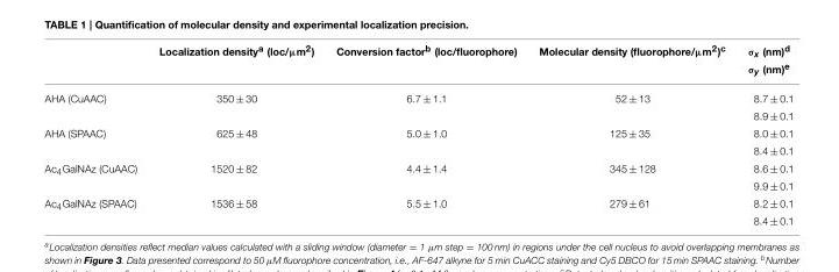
<table><thead><tr><td></td><td>Localization density<sup>a</sup> (loc/µm<sup>2</sup>)</td><td>Conversion factor<sup>b</sup> (loc/fluorophore)</td><td>Molecular density (fluorophore/µm<sup>2</sup>)<sup>c</sup></td><td>σ<sub>x</sub> (nm)<sup>d</sup> σ<sub>y</sub> (nm)<sup>e</sup></td></tr></thead><tbody><tr><td>AHA (CuAAC)</td><td>350 ± 30</td><td>6.7 ± 1.1</td><td>52 ± 13</td><td>8.7 ± 0.1 8.9 ± 0.1</td></tr><tr><td>AHA (SPAAC)</td><td>625 ± 48</td><td>5.0 ± 1.0</td><td>125 ± 35</td><td>8.0 ± 0.1 8.4 ± 0.1</td></tr><tr><td>Ac<sub>4</sub>GalNAz (CuAAC)</td><td>1520 ± 82</td><td>4.4 ± 1.4</td><td>345 ± 128</td><td>8.6 ± 0.1 9.9 ± 0.1</td></tr><tr><td>Ac<sub>4</sub>GalNAz (SPAAC)</td><td>1536 ± 58</td><td>5.5 ± 1.0</td><td>279 ± 61</td><td>8.2 ± 0.1 8.4 ± 0.1</td></tr></tbody></table>